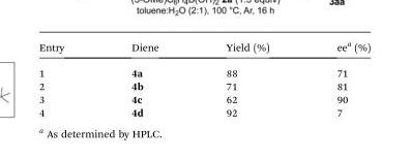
<table><thead><tr><td>Entry</td><td>Diene</td><td>Yield (%)</td><td>ee<sup>a</sup> (%)</td></tr></thead><tbody><tr><td>1</td><td>4a</td><td>88</td><td>71</td></tr><tr><td>2</td><td>4b</td><td>71</td><td>81</td></tr><tr><td>3</td><td>4c</td><td>62</td><td>90</td></tr><tr><td>4</td><td>4d</td><td>92</td><td>7</td></tr></tbody></table>